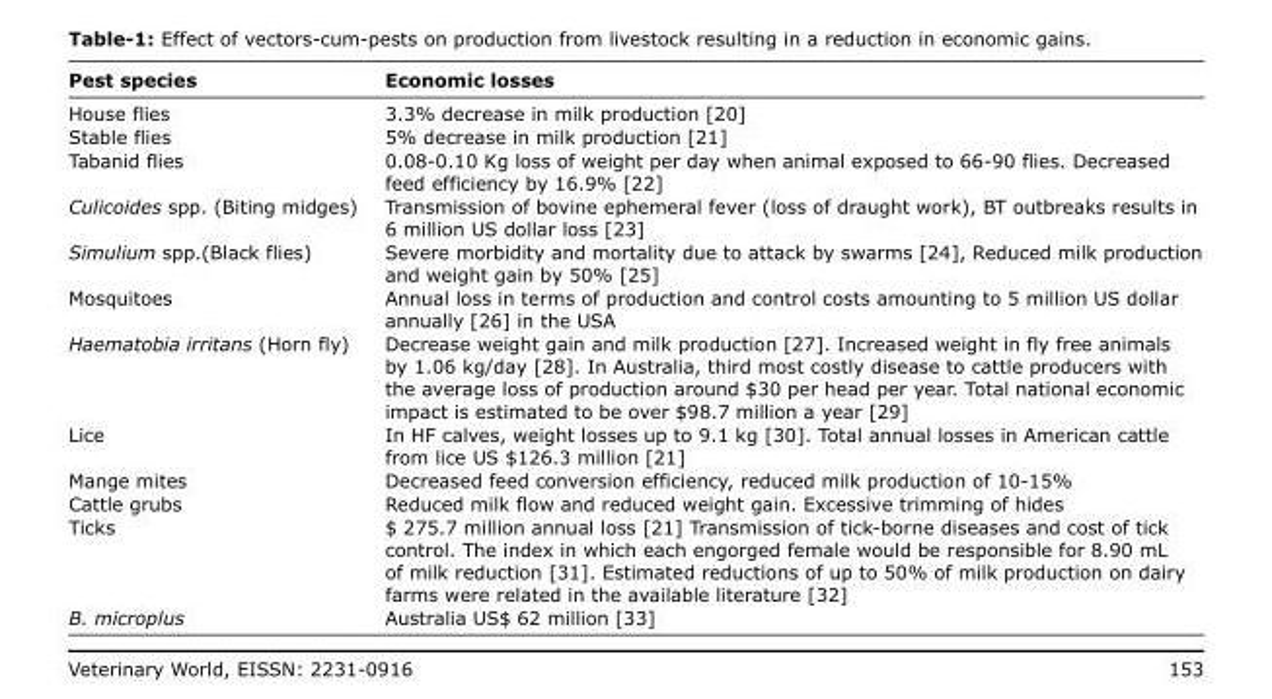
<table><thead><tr><td>Pest species</td><td>Economic losses</td></tr></thead><tbody><tr><td>House flies</td><td>3.3% decrease in milk production [20]</td></tr><tr><td>Stable flies</td><td>5% decrease in milk production [21]</td></tr><tr><td>Tabanid flies</td><td>0.08-0.10 Kg loss of weight per day when animal exposed to 66-90 flies. Decreased feed efficiency by 16.9% [22]</td></tr><tr><td>Culicoides spp. (Biting midges)</td><td>Transmission of bovine ephemeral fever (loss of draught work), BT outbreaks results in 6 million US dollar loss [23]</td></tr><tr><td>Simulium spp.(Black flies)</td><td>Severe morbidity and mortality due to attack by swarms [24], Reduced milk production and weight gain by 50% [25]</td></tr><tr><td>Mosquitoes</td><td>Annual loss in terms of production and control costs amounting to 5 million US dollar annually [26] in the USA</td></tr><tr><td>Haematobia irritans (Horn fly)</td><td>Decrease weight gain and milk production [27]. Increased weight in fly free animals by 1.06 kg/day [28]. In Australia, third most costly disease to cattle producers with the average loss of production around $30 per head per year. Total national economic impact is estimated to be over $98.7 million a year [29]</td></tr><tr><td>Lice</td><td>In HF calves, weight losses up to 9.1 kg [30]. Total annual losses in American cattle from lice US $126.3 million [21]</td></tr><tr><td>Mange mites</td><td>Decreased feed conversion efficiency, reduced milk production of 10-15%</td></tr><tr><td>Cattle grubs</td><td>Reduced milk flow and reduced weight gain. Excessive trimming of hides</td></tr><tr><td>Ticks</td><td>$ 275.7 million annual loss [21] Transmission of tick-borne diseases and cost of tick control. The index in which each engorged female would be responsible for 8.90 mL of milk reduction [31]. Estimated reductions of up to 50% of milk production on dairy farms were related in the available literature [32]</td></tr><tr><td>B. microplus</td><td>Australia US$ 62 million [33]</td></tr></tbody></table>